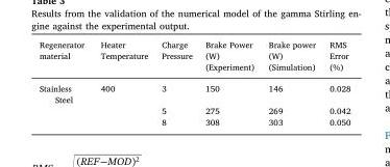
<table><thead><tr><td>Regenerator material</td><td>Heater Temperature</td><td>Charge Pressure</td><td>Brake Power (W) (Experiment)</td><td>Brake power (W) (Simulation)</td><td>RMS Error (%)</td></tr></thead><tbody><tr><td rowspan="3">Stainless Steel</td><td>400</td><td>3</td><td>150</td><td>146</td><td>0.028</td></tr><tr><td></td><td>5</td><td>275</td><td>269</td><td>0.042</td></tr><tr><td></td><td>8</td><td>308</td><td>303</td><td>0.050</td></tr></tbody></table>